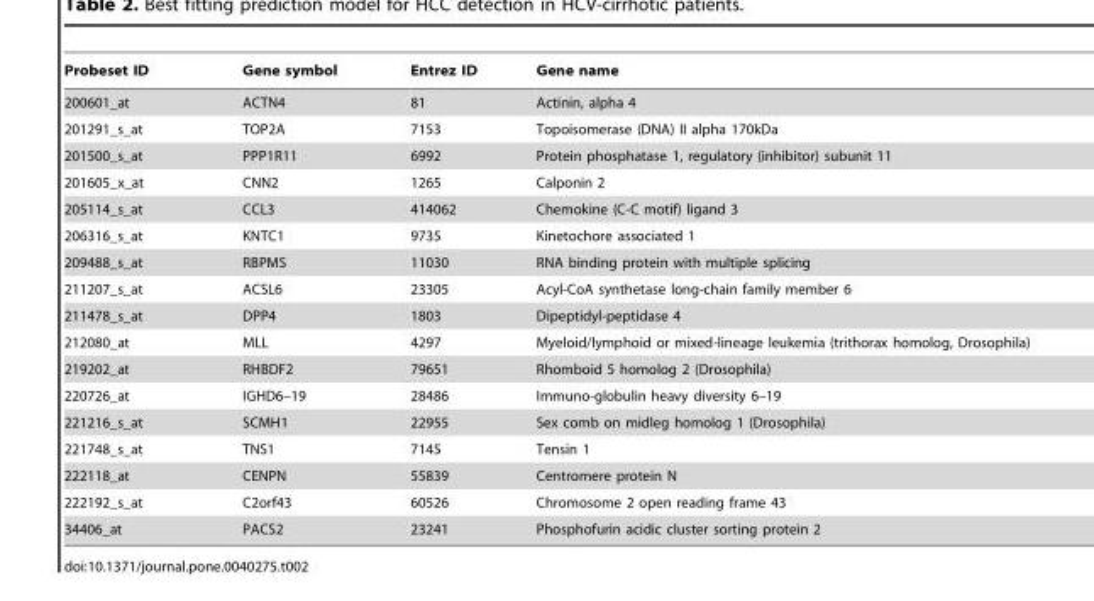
<table><thead><tr><td>Probeset ID</td><td>Gene symbol</td><td>Entrez ID</td><td>Gene name</td></tr></thead><tbody><tr><td>200601_at</td><td>ACTN4</td><td>81</td><td>Actinin, alpha 4</td></tr><tr><td>201291_s_at</td><td>TOP2A</td><td>7153</td><td>Topoisomerase (DNA) II alpha 170kDa</td></tr><tr><td>201500_s_at</td><td>PPP1R11</td><td>6992</td><td>Protein phosphatase 1, regulatory (inhibitor) subunit 11</td></tr><tr><td>201605_x_at</td><td>CNN2</td><td>1265</td><td>Calponin 2</td></tr><tr><td>205114_s_at</td><td>CCL3</td><td>414062</td><td>Chemokine (C-C motif) ligand 3</td></tr><tr><td>206316_s_at</td><td>KNTC1</td><td>9735</td><td>Kinetochore associated 1</td></tr><tr><td>209488_s_at</td><td>RBPMS</td><td>11030</td><td>RNA binding protein with multiple splicing</td></tr><tr><td>211207_s_at</td><td>ACSL6</td><td>23305</td><td>Acyl-CoA synthetase long-chain family member 6</td></tr><tr><td>211478_s_at</td><td>DPP4</td><td>1803</td><td>Dipeptidyl-peptidase 4</td></tr><tr><td>212080_at</td><td>MLL</td><td>4297</td><td>Myeloid/lymphoid or mixed-lineage leukemia (trithorax homolog, Drosophila)</td></tr><tr><td>219202_at</td><td>RHBDF2</td><td>79651</td><td>Rhomboid 5 homolog 2 (Drosophila)</td></tr><tr><td>220726_at</td><td>IGHD6–19</td><td>28486</td><td>Immuno-globulin heavy diversity 6–19</td></tr><tr><td>221216_s_at</td><td>SCMH1</td><td>22955</td><td>Sex comb on midleg homolog 1 (Drosophila)</td></tr><tr><td>221748_s_at</td><td>TNS1</td><td>7145</td><td>Tensin 1</td></tr><tr><td>222118_at</td><td>CENPN</td><td>55839</td><td>Centromere protein N</td></tr><tr><td>222192_s_at</td><td>C2orf43</td><td>60526</td><td>Chromosome 2 open reading frame 43</td></tr><tr><td>34406_at</td><td>PACS2</td><td>23241</td><td>Phosphofurin acidic cluster sorting protein 2</td></tr></tbody></table>